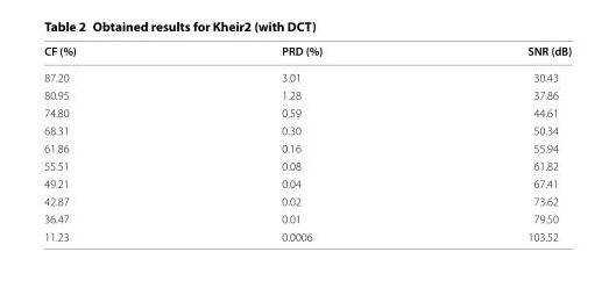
<table><thead><tr><td>CF (%)</td><td>PRD (%)</td><td>SNR (dB)</td></tr></thead><tbody><tr><td>87.20</td><td>3.01</td><td>30.43</td></tr><tr><td>80.95</td><td>1.28</td><td>37.86</td></tr><tr><td>74.80</td><td>0.59</td><td>44.61</td></tr><tr><td>68.31</td><td>0.30</td><td>50.34</td></tr><tr><td>61.86</td><td>0.16</td><td>55.94</td></tr><tr><td>55.51</td><td>0.08</td><td>61.82</td></tr><tr><td>49.21</td><td>0.04</td><td>67.41</td></tr><tr><td>42.87</td><td>0.02</td><td>73.62</td></tr><tr><td>36.47</td><td>0.01</td><td>79.50</td></tr><tr><td>11.23</td><td>0.0006</td><td>103.52</td></tr></tbody></table>